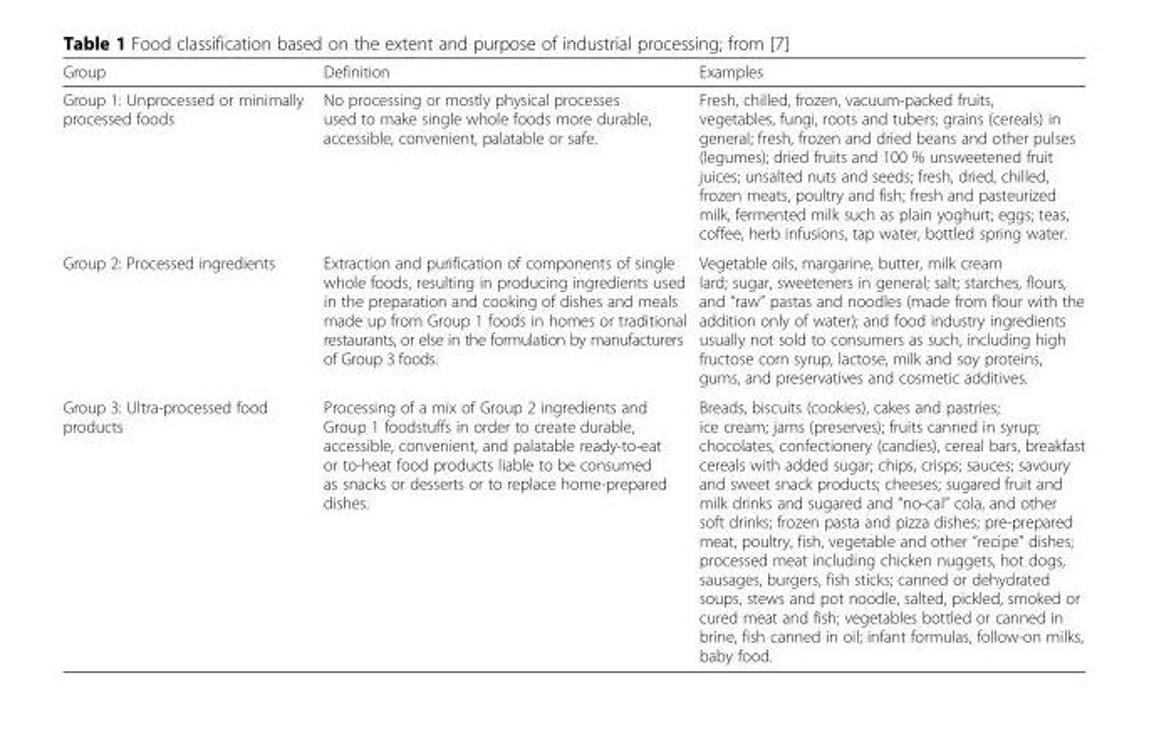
<table><thead><tr><td>Group</td><td>Definition</td><td>Examples</td></tr></thead><tbody><tr><td>Group 1: Unprocessed or minimally processed foods</td><td>No processing or mostly physical processes used to make single whole foods more durable, accessible, convenient, palatable or safe.</td><td>Fresh, chilled, frozen, vacuum-packed fruits, vegetables, fungi, roots and tubers; grains (cereals) in general; fresh, frozen and dried beans and other pulses (legumes); dried fruits and 100 % unsweetened fruit juices; unsalted nuts and seeds; fresh, dried, chilled, frozen meats, poultry and fish; fresh and pasteurized milk, fermented milk such as plain yoghurt; eggs; teas, coffee, herb infusions, tap water, bottled spring water.</td></tr><tr><td>Group 2: Processed ingredients</td><td>Extraction and purification of components of single whole foods, resulting in producing ingredients used in the preparation and cooking of dishes and meals made up from Group 1 foods in homes or traditional restaurants, or else in the formulation by manufacturers of Group 3 foods.</td><td>Vegetable oils, margarine, butter, milk cream lard; sugar, sweeteners in general; salt; starches, flours, and “raw” pastas and noodles (made from flour with the addition only of water); and food industry ingredients usually not sold to consumers as such, including high fructose corn syrup, lactose, milk and soy proteins, gums, and preservatives and cosmetic additives.</td></tr><tr><td>Group 3: Ultra-processed food products</td><td>Processing of a mix of Group 2 ingredients and Group 1 foodstuffs in order to create durable, accessible, convenient, and palatable ready-to-eat or to-heat food products liable to be consumed as snacks or desserts or to replace home-prepared dishes.</td><td>Breads, biscuits (cookies), cakes and pastries; ice cream; jams (preserves); fruits canned in syrup; chocolates, confectionery (candies), cereal bars, breakfast cereals with added sugar; chips, crisps; sauces; savoury and sweet snack products; cheeses; sugared fruit and milk drinks and sugared and “no-cal” cola, and other soft drinks; frozen pasta and pizza dishes; pre-prepared meat, poultry, fish, vegetable and other “recipe” dishes; processed meat including chicken nuggets, hot dogs, sausages, burgers, fish sticks; canned or dehydrated soups, stews and pot noodle, salted, pickled, smoked or cured meat and fish; vegetables bottled or canned in brine, fish canned in oil; infant formulas, follow-on milks, baby food.</td></tr></tbody></table>